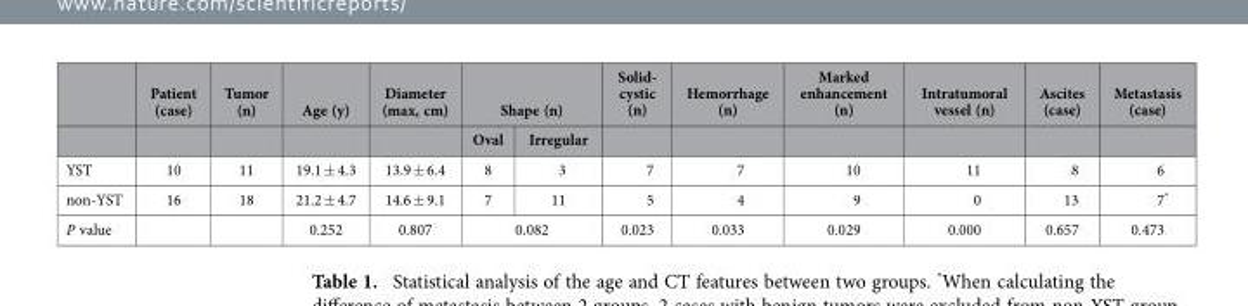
<table><thead><tr><td rowspan="2"></td><td rowspan="2">Patient (case)</td><td rowspan="2">Tumor (n)</td><td rowspan="2">Age (y)</td><td rowspan="2">Diameter (max, cm)</td><td colspan="2">Shape (n)</td><td rowspan="2">Solid- cystic (n)</td><td rowspan="2">Hemorrhage (n)</td><td rowspan="2">Marked enhancement (n)</td><td rowspan="2">Intratumoral vessel (n)</td><td rowspan="2">Ascites (case)</td><td rowspan="2">Metastasis (case)</td></tr><tr><td>Oval</td><td>Irregular</td></tr></thead><tbody><tr><td>YST</td><td>10</td><td>11</td><td>19.1 ± 4.3</td><td>13.9 ± 6.4</td><td>8</td><td>3</td><td>7</td><td>7</td><td>10</td><td>11</td><td>8</td><td>6</td></tr><tr><td>non-YST</td><td>16</td><td>18</td><td>21.2 ± 4.7</td><td>14.6 ± 9.1</td><td>7</td><td>11</td><td>5</td><td>4</td><td>9</td><td>0</td><td>13</td><td>7*</td></tr><tr><td>P value</td><td></td><td></td><td>0.252</td><td>0.807</td><td colspan="2">0.082</td><td>0.023</td><td>0.033</td><td>0.029</td><td>0.000</td><td>0.657</td><td>0.473</td></tr></tbody></table>